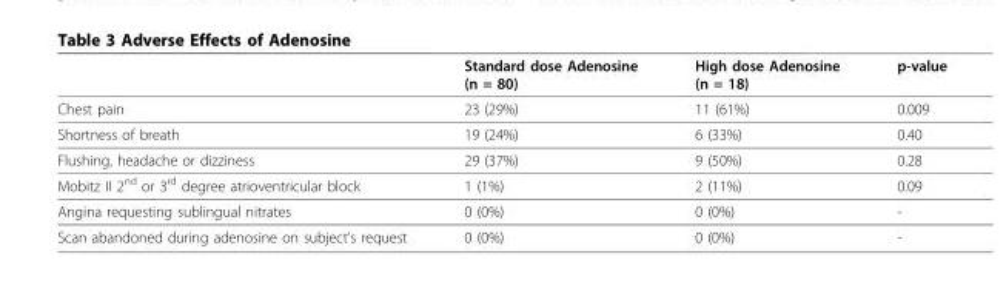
<table><thead><tr><td></td><td>Standard dose Adenosine (n = 80)</td><td>High dose Adenosine (n = 18)</td><td>p-value</td></tr></thead><tbody><tr><td>Chest pain</td><td>23 (29%)</td><td>11 (61%)</td><td>0.009</td></tr><tr><td>Shortness of breath</td><td>19 (24%)</td><td>6 (33%)</td><td>0.40</td></tr><tr><td>Flushing, headache or dizziness</td><td>29 (37%)</td><td>9 (50%)</td><td>0.28</td></tr><tr><td>Mobitz II 2<sup>nd</sup> or 3<sup>rd</sup> degree atrioventricular block</td><td>1 (1%)</td><td>2 (11%)</td><td>0.09</td></tr><tr><td>Angina requesting sublingual nitrates</td><td>0 (0%)</td><td>0 (0%)</td><td>-</td></tr><tr><td>Scan abandoned during adenosine on subject’s request</td><td>0 (0%)</td><td>0 (0%)</td><td>-</td></tr></tbody></table>